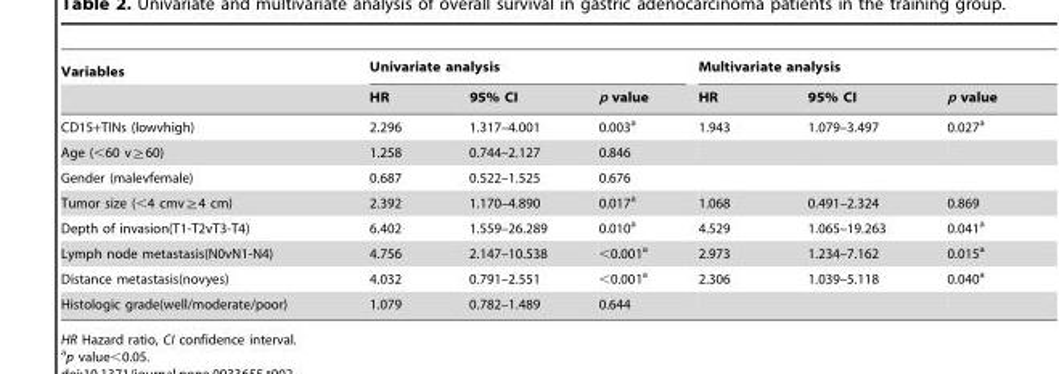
<table><thead><tr><td rowspan="2">Variables</td><td colspan="3">Univariate analysis</td><td colspan="3">Multivariate analysis</td></tr><tr><td>HR</td><td>95% CI</td><td>p value</td><td>HR</td><td>95% CI</td><td>p value</td></tr></thead><tbody><tr><td>CD15+TINs (lowvhigh)</td><td>2.296</td><td>1.317–4.001</td><td>0.003<sup>a</sup></td><td>1.943</td><td>1.079–3.497</td><td>0.027<sup>a</sup></td></tr><tr><td>Age (&lt;60 v≧60)</td><td>1.258</td><td>0.744–2.127</td><td>0.846</td><td></td><td></td><td></td></tr><tr><td>Gender (malevfemale)</td><td>0.687</td><td>0.522–1.525</td><td>0.676</td><td></td><td></td><td></td></tr><tr><td>Tumor size (&lt;4 cmv≧4 cm)</td><td>2.392</td><td>1.170–4.890</td><td>0.017<sup>a</sup></td><td>1.068</td><td>0.491–2.324</td><td>0.869</td></tr><tr><td>Depth of invasion(T1-T2vT3-T4)</td><td>6.402</td><td>1.559–26.289</td><td>0.010<sup>a</sup></td><td>4.529</td><td>1.065–19.263</td><td>0.041<sup>a</sup></td></tr><tr><td>Lymph node metastasis(N0vN1-N4)</td><td>4.756</td><td>2.147–10.538</td><td>&lt;0.001<sup>a</sup></td><td>2.973</td><td>1.234–7.162</td><td>0.015<sup>a</sup></td></tr><tr><td>Distance metastasis(novyes)</td><td>4.032</td><td>0.791–2.551</td><td>&lt;0.001<sup>a</sup></td><td>2.306</td><td>1.039–5.118</td><td>0.040<sup>a</sup></td></tr><tr><td>Histologic grade(well/moderate/poor)</td><td>1.079</td><td>0.782–1.489</td><td>0.644</td><td></td><td></td><td></td></tr></tbody></table>